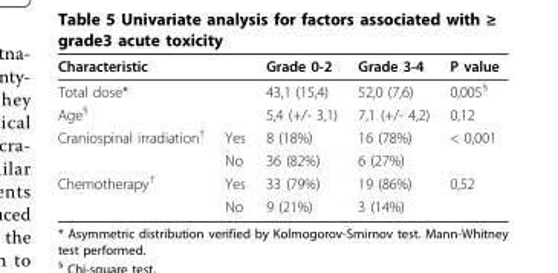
<table><thead><tr><td>Characteristic</td><td></td><td>Grade 0-2</td><td>Grade 3-4</td><td>P value</td></tr></thead><tbody><tr><td>Total dose*</td><td></td><td>43,1 (15,4)</td><td>52,0 (7,6)</td><td>0,005<sup>§</sup></td></tr><tr><td>Age<sup>§</sup></td><td></td><td>5,4 (+/- 3,1)</td><td>7,1 (+/- 4,2)</td><td>0,12</td></tr><tr><td rowspan="2">Craniospinal irradiation<sup>†</sup></td><td>Yes</td><td>8 (18%)</td><td>16 (78%)</td><td>&lt; 0,001</td></tr><tr><td>No</td><td>36 (82%)</td><td>6 (27%)</td><td></td></tr><tr><td rowspan="2">Chemotherapy<sup>†</sup></td><td>Yes</td><td>33 (79%)</td><td>19 (86%)</td><td>0,52</td></tr><tr><td>No</td><td>9 (21%)</td><td>3 (14%)</td><td></td></tr></tbody></table>